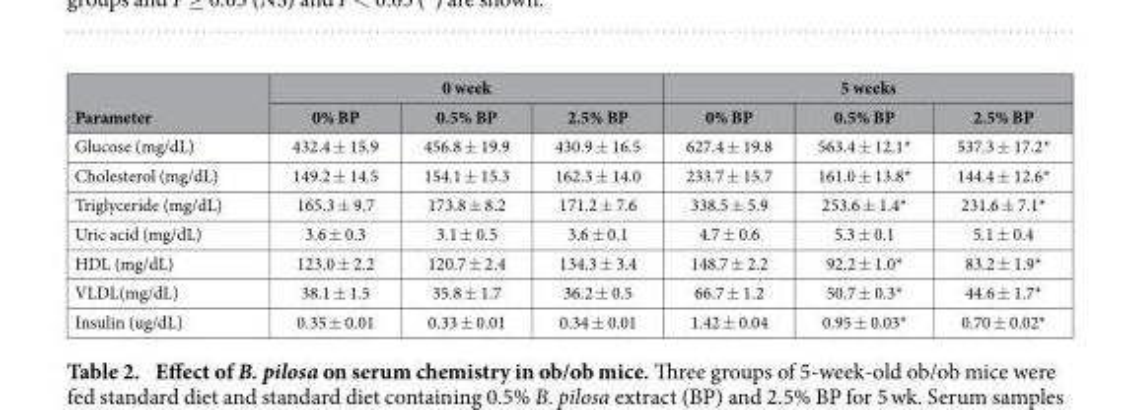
<table><thead><tr><td rowspan="2">Parameter</td><td colspan="3">0 week</td><td colspan="3">5 weeks</td></tr><tr><td>0% BP</td><td>0.5% BP</td><td>2.5% BP</td><td>0% BP</td><td>0.5% BP</td><td>2.5% BP</td></tr></thead><tbody><tr><td>Glucose (mg/dL)</td><td>432.4 ± 15.9</td><td>456.8 ± 19.9</td><td>430.9 ± 16.5</td><td>627.4 ± 19.8</td><td>563.4 ± 12.1*</td><td>537.3 ± 17.2*</td></tr><tr><td>Cholesterol (mg/dL)</td><td>149.2 ± 14.5</td><td>154.1 ± 15.3</td><td>162.3 ± 14.0</td><td>233.7 ± 15.7</td><td>161.0 ± 13.8*</td><td>144.4 ± 12.6*</td></tr><tr><td>Triglyceride (mg/dL)</td><td>165.3 ± 9.7</td><td>173.8 ± 8.2</td><td>171.2 ± 7.6</td><td>338.5 ± 5.9</td><td>253.6 ± 1.4*</td><td>231.6 ± 7.1*</td></tr><tr><td>Uric acid (mg/dL)</td><td>3.6 ± 0.3</td><td>3.1 ± 0.5</td><td>3.6 ± 0.1</td><td>4.7 ± 0.6</td><td>5.3 ± 0.1</td><td>5.1 ± 0.4</td></tr><tr><td>HDL (mg/dL)</td><td>123.0 ± 2.2</td><td>120.7 ± 2.4</td><td>134.3 ± 3.4</td><td>148.7 ± 2.2</td><td>92.2 ± 1.0*</td><td>83.2 ± 1.9*</td></tr><tr><td>VLDL(mg/dL)</td><td>38.1 ± 1.5</td><td>35.8 ± 1.7</td><td>36.2 ± 0.5</td><td>66.7 ± 1.2</td><td>50.7 ± 0.3*</td><td>44.6 ± 1.7*</td></tr><tr><td>Insulin (ug/dL)</td><td>0.35 ± 0.01</td><td>0.33 ± 0.01</td><td>0.34 ± 0.01</td><td>1.42 ± 0.04</td><td>0.95 ± 0.03*</td><td>0.70 ± 0.02*</td></tr></tbody></table>